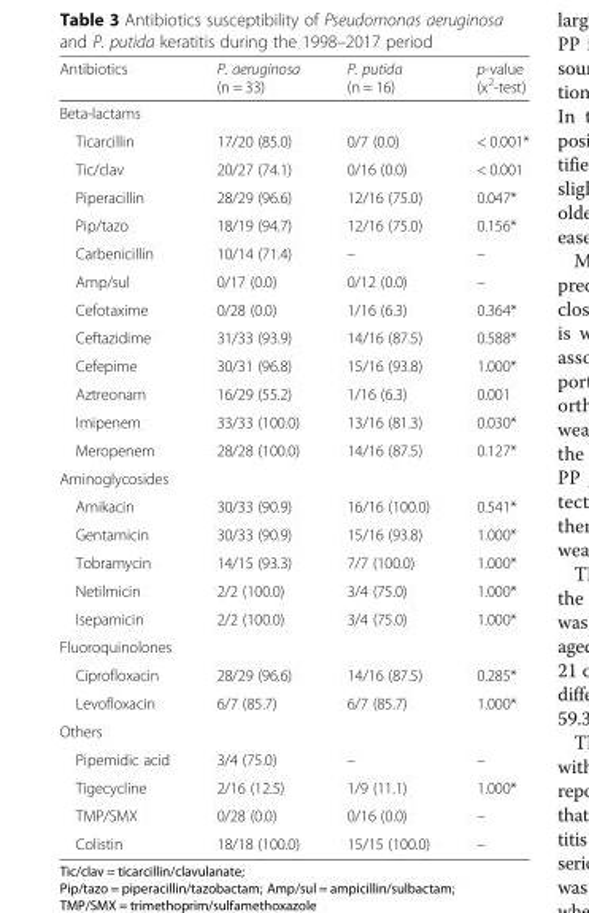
<table><thead><tr><td>Antibiotics</td><td>P. aeruginosa (n = 33)</td><td>P. putida (n = 16)</td><td>p-value (x<sup>2</sup>-test)</td></tr></thead><tbody><tr><td colspan="4">Beta-lactams</td></tr><tr><td>Ticarcillin</td><td>17/20 (85.0)</td><td>0/7 (0.0)</td><td>&lt; 0.001*</td></tr><tr><td>Tic/clav</td><td>20/27 (74.1)</td><td>0/16 (0.0)</td><td>&lt; 0.001</td></tr><tr><td>Piperacillin</td><td>28/29 (96.6)</td><td>12/16 (75.0)</td><td>0.047*</td></tr><tr><td>Pip/tazo</td><td>18/19 (94.7)</td><td>12/16 (75.0)</td><td>0.156*</td></tr><tr><td>Carbenicillin</td><td>10/14 (71.4)</td><td>–</td><td>–</td></tr><tr><td>Amp/sul</td><td>0/17 (0.0)</td><td>0/12 (0.0)</td><td>–</td></tr><tr><td>Cefotaxime</td><td>0/28 (0.0)</td><td>1/16 (6.3)</td><td>0.364*</td></tr><tr><td>Ceftazidime</td><td>31/33 (93.9)</td><td>14/16 (87.5)</td><td>0.588*</td></tr><tr><td>Cefepime</td><td>30/31 (96.8)</td><td>15/16 (93.8)</td><td>1.000*</td></tr><tr><td>Aztreonam</td><td>16/29 (55.2)</td><td>1/16 (6.3)</td><td>0.001</td></tr><tr><td>Imipenem</td><td>33/33 (100.0)</td><td>13/16 (81.3)</td><td>0.030*</td></tr><tr><td>Meropenem</td><td>28/28 (100.0)</td><td>14/16 (87.5)</td><td>0.127*</td></tr><tr><td colspan="4">Aminoglycosides</td></tr><tr><td>Amikacin</td><td>30/33 (90.9)</td><td>16/16 (100.0)</td><td>0.541*</td></tr><tr><td>Gentamicin</td><td>30/33 (90.9)</td><td>15/16 (93.8)</td><td>1.000*</td></tr><tr><td>Tobramycin</td><td>14/15 (93.3)</td><td>7/7 (100.0)</td><td>1.000*</td></tr><tr><td>Netilmicin</td><td>2/2 (100.0)</td><td>3/4 (75.0)</td><td>1.000*</td></tr><tr><td>Isepamicin</td><td>2/2 (100.0)</td><td>3/4 (75.0)</td><td>1.000*</td></tr><tr><td colspan="4">Fluoroquinolones</td></tr><tr><td>Ciprofloxacin</td><td>28/29 (96.6)</td><td>14/16 (87.5)</td><td>0.285*</td></tr><tr><td>Levofloxacin</td><td>6/7 (85.7)</td><td>6/7 (85.7)</td><td>1.000*</td></tr><tr><td colspan="4">Others</td></tr><tr><td>Pipemidic acid</td><td>3/4 (75.0)</td><td>–</td><td>–</td></tr><tr><td>Tigecycline</td><td>2/16 (12.5)</td><td>1/9 (11.1)</td><td>1.000*</td></tr><tr><td>TMP/SMX</td><td>0/28 (0.0)</td><td>0/16 (0.0)</td><td>–</td></tr><tr><td>Colistin</td><td>18/18 (100.0)</td><td>15/15 (100.0)</td><td>–</td></tr></tbody></table>